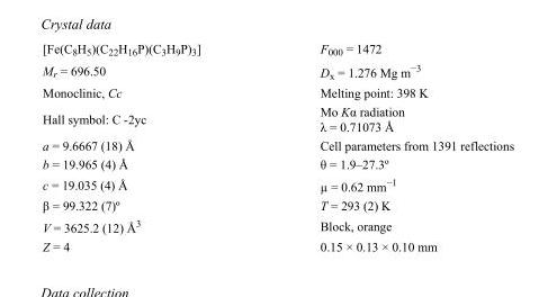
<table><tbody><tr><td>[Fe(C<sub>8</sub>H<sub>5</sub>)(C<sub>22</sub>H<sub>16</sub>P)(C<sub>3</sub>H<sub>9</sub>P)<sub>3</sub>]</td><td>F000 = 1472</td></tr><tr><td>M<sub>r</sub> = 696.50</td><td>D<sub>x</sub> = 1.276 Mg m<sup>−3</sup></td></tr><tr><td>Monoclinic, Cc</td><td>Melting point: 398 K</td></tr><tr><td>Hall symbol: C -2yc</td><td>Mo Kα radiation λ = 0.71073 Å</td></tr><tr><td>a = 9.6667 (18) Å</td><td>Cell parameters from 1391 reflections</td></tr><tr><td>b = 19.965 (4) Å</td><td>θ = 1.9–27.3º</td></tr><tr><td>c = 19.035 (4) Å</td><td>µ = 0.62 mm<sup>−1</sup></td></tr><tr><td>β = 99.322 (7)º</td><td>T = 293 (2) K</td></tr><tr><td>V = 3625.2 (12) Å<sup>3</sup></td><td>Block, orange</td></tr><tr><td>Z = 4</td><td>0.15 × 0.13 × 0.10 mm</td></tr></tbody></table>